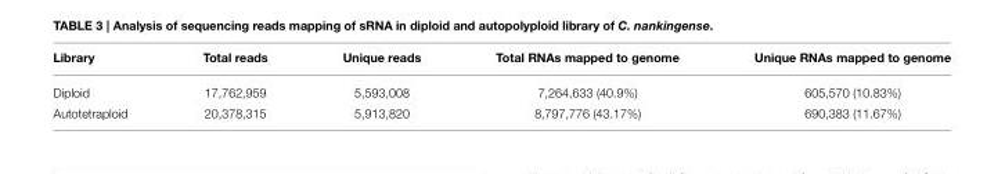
<table><thead><tr><td>Library</td><td>Total reads</td><td>Unique reads</td><td>Total RNAs mapped to genome</td><td>Unique RNAs mapped to genome</td></tr></thead><tbody><tr><td>Diploid</td><td>17,762,959</td><td>5,593,008</td><td>7,264,633 (40.9%)</td><td>605,570 (10.83%)</td></tr><tr><td>Autotetraploid</td><td>20,378,315</td><td>5,913,820</td><td>8,797,776 (43.17%)</td><td>690,383 (11.67%)</td></tr></tbody></table>